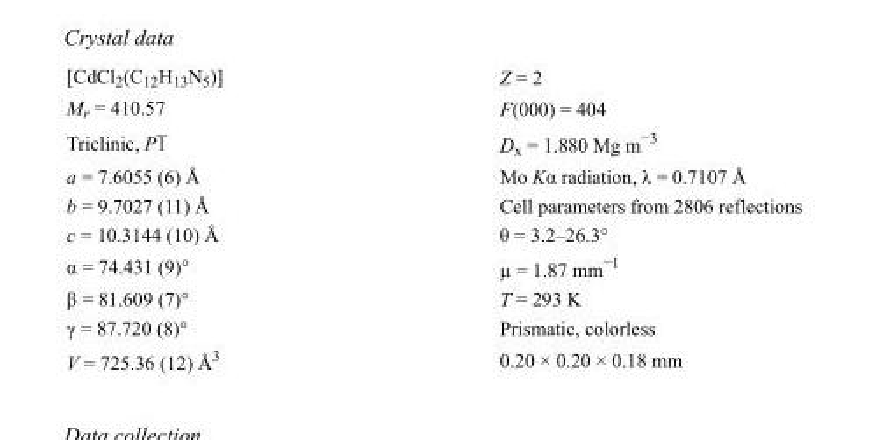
<table><tbody><tr><td>[CdCl<sub>2</sub>(C<sub>12</sub>H<sub>13</sub>N<sub>5</sub>)]</td><td>Z = 2</td></tr><tr><td>M<sub>r</sub> = 410.57</td><td>F(000) = 404</td></tr><tr><td>Triclinic, P1</td><td>D<sub>x</sub> = 1.880 Mg m<sup>−3</sup></td></tr><tr><td>a = 7.6055 (6) Å</td><td>Mo Kα radiation, λ = 0.7107 Å</td></tr><tr><td>b = 9.7027 (11) Å</td><td>Cell parameters from 2806 reflections</td></tr><tr><td>c = 10.3144 (10) Å</td><td>θ = 3.2–26.3°</td></tr><tr><td>α = 74.431 (9)°</td><td>µ = 1.87 mm<sup>−1</sup></td></tr><tr><td>β = 81.609 (7)°</td><td>T = 293 K</td></tr><tr><td>γ = 87.720 (8)°</td><td>Prismatic, colorless</td></tr><tr><td>V = 725.36 (12) Å<sup>3</sup></td><td>0.20 × 0.20 × 0.18 mm</td></tr></tbody></table>